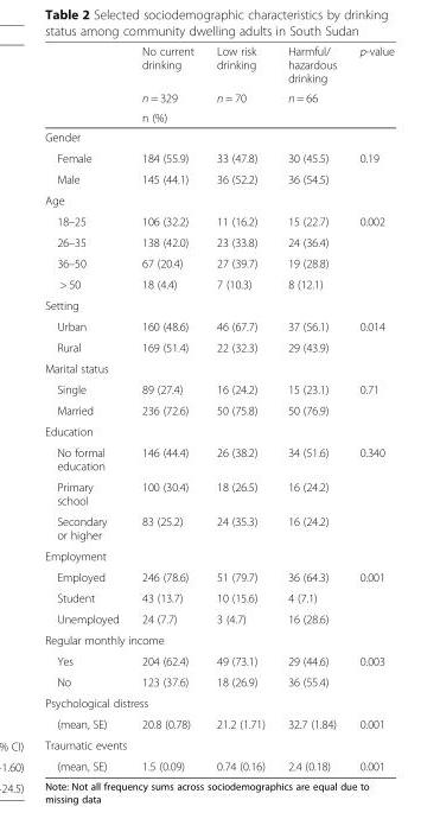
<table><thead><tr><td rowspan="3"></td><td rowspan="2">No current drinking n = 329</td><td rowspan="2">Low risk drinking n = 70</td><td rowspan="2">Harmful/ hazardous drinking n = 66</td><td rowspan="3">p-value</td></tr><tr></tr><tr><td colspan="3">n (%)</td></tr></thead><tbody><tr><td colspan="5">Gender</td></tr><tr><td>Female</td><td>184 (55.9)</td><td>33 (47.8)</td><td>30 (45.5)</td><td rowspan="2">0.19</td></tr><tr><td>Male</td><td>145 (44.1)</td><td>36 (52.2)</td><td>36 (54.5)</td></tr><tr><td colspan="5">Age</td></tr><tr><td>18–25</td><td>106 (32.2)</td><td>11 (16.2)</td><td>15 (22.7)</td><td rowspan="4">0.002</td></tr><tr><td>26–35</td><td>138 (42.0)</td><td>23 (33.8)</td><td>24 (36.4)</td></tr><tr><td>36–50</td><td>67 (20.4)</td><td>27 (39.7)</td><td>19 (28.8)</td></tr><tr><td>&gt; 50</td><td>18 (4.4)</td><td>7 (10.3)</td><td>8 (12.1)</td></tr><tr><td colspan="5">Setting</td></tr><tr><td>Urban</td><td>160 (48.6)</td><td>46 (67.7)</td><td>37 (56.1)</td><td rowspan="2">0.014</td></tr><tr><td>Rural</td><td>169 (51.4)</td><td>22 (32.3)</td><td>29 (43.9)</td></tr><tr><td colspan="5">Marital status</td></tr><tr><td>Single</td><td>89 (27.4)</td><td>16 (24.2)</td><td>15 (23.1)</td><td rowspan="2">0.71</td></tr><tr><td>Married</td><td>236 (72.6)</td><td>50 (75.8)</td><td>50 (76.9)</td></tr><tr><td colspan="5">Education</td></tr><tr><td>No formal education</td><td>146 (44.4)</td><td>26 (38.2)</td><td>34 (51.6)</td><td rowspan="3">0.340</td></tr><tr><td>Primary school</td><td>100 (30.4)</td><td>18 (26.5)</td><td>16 (24.2)</td></tr><tr><td>Secondary or higher</td><td>83 (25.2)</td><td>24 (35.3)</td><td>16 (24.2)</td></tr><tr><td colspan="5">Employment</td></tr><tr><td>Employed</td><td>246 (78.6)</td><td>51 (79.7)</td><td>36 (64.3)</td><td rowspan="3">0.001</td></tr><tr><td>Student</td><td>43 (13.7)</td><td>10 (15.6)</td><td>4 (7.1)</td></tr><tr><td>Unemployed</td><td>24 (7.7)</td><td>3 (4.7)</td><td>16 (28.6)</td></tr><tr><td colspan="5">Regular monthly income</td></tr><tr><td>Yes</td><td>204 (62.4)</td><td>49 (73.1)</td><td>29 (44.6)</td><td rowspan="2">0.003</td></tr><tr><td>No</td><td>123 (37.6)</td><td>18 (26.9)</td><td>36 (55.4)</td></tr><tr><td colspan="5">Psychological distress</td></tr><tr><td>(mean, SE)</td><td>20.8 (0.78)</td><td>21.2 (1.71)</td><td>32.7 (1.84)</td><td>0.001</td></tr><tr><td colspan="5">Traumatic events</td></tr><tr><td>(mean, SE)</td><td>1.5 (0.09)</td><td>0.74 (0.16)</td><td>2.4 (0.18)</td><td>0.001</td></tr></tbody></table>